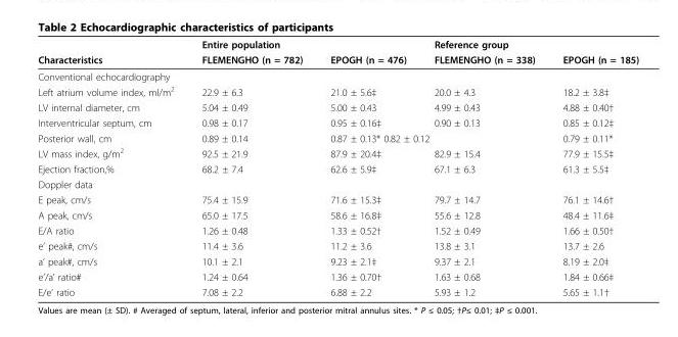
<table><thead><tr><td rowspan="2">Characteristics</td><td colspan="2">Entire population</td><td colspan="2">Reference group</td></tr><tr><td>FLEMENGHO (n = 782)</td><td>EPOGH (n = 476)</td><td>FLEMENGHO (n = 338)</td><td>EPOGH (n = 185)</td></tr></thead><tbody><tr><td colspan="5">Conventional echocardiography</td></tr><tr><td>Left atrium volume index, ml/m<sup>2</sup></td><td>22.9 ± 6.3</td><td>21.0 ± 5.6‡</td><td>20.0 ± 4.3</td><td>18.2 ± 3.8‡</td></tr><tr><td>LV internal diameter, cm</td><td>5.04 ± 0.49</td><td>5.00 ± 0.43</td><td>4.99 ± 0.43</td><td>4.88 ± 0.40†</td></tr><tr><td>Interventricular septum, cm</td><td>0.98 ± 0.17</td><td>0.95 ± 0.16‡</td><td>0.90 ± 0.13</td><td>0.85 ± 0.12‡</td></tr><tr><td>Posterior wall, cm</td><td>0.89 ± 0.14</td><td colspan="2">0.87 ± 0.13* 0.82 ± 0.12</td><td>0.79 ± 0.11*</td></tr><tr><td>LV mass index, g/m<sup>2</sup></td><td>92.5 ± 21.9</td><td>87.9 ± 20.4‡</td><td>82.9 ± 15.4</td><td>77.9 ± 15.5‡</td></tr><tr><td>Ejection fraction,%</td><td>68.2 ± 7.4</td><td>62.6 ± 5.9‡</td><td>67.1 ± 6.3</td><td>61.3 ± 5.5‡</td></tr><tr><td colspan="5">Doppler data</td></tr><tr><td>E peak, cm/s</td><td>75.4 ± 15.9</td><td>71.6 ± 15.3‡</td><td>79.7 ± 14.7</td><td>76.1 ± 14.6†</td></tr><tr><td>A peak, cm/s</td><td>65.0 ± 17.5</td><td>58.6 ± 16.8‡</td><td>55.6 ± 12.8</td><td>48.4 ± 11.6‡</td></tr><tr><td>E/A ratio</td><td>1.26 ± 0.48</td><td>1.33 ± 0.52†</td><td>1.52 ± 0.49</td><td>1.66 ± 0.50†</td></tr><tr><td>e’ peak#, cm/s</td><td>11.4 ± 3.6</td><td>11.2 ± 3.6</td><td>13.8 ± 3.1</td><td>13.7 ± 2.6</td></tr><tr><td>a’ peak#, cm/s</td><td>10.1 ± 2.1</td><td>9.23 ± 2.1‡</td><td>9.37 ± 2.1</td><td>8.19 ± 2.0‡</td></tr><tr><td>e’/a’ ratio#</td><td>1.24 ± 0.64</td><td>1.36 ± 0.70†</td><td>1.63 ± 0.68</td><td>1.84 ± 0.66‡</td></tr><tr><td>E/e’ ratio</td><td>7.08 ± 2.2</td><td>6.88 ± 2.2</td><td>5.93 ± 1.2</td><td>5.65 ± 1.1†</td></tr></tbody></table>